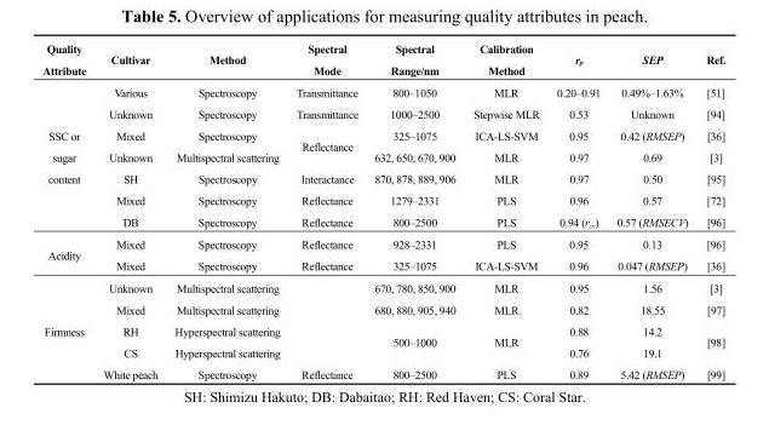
<table><thead><tr><td>Quality Attribute</td><td>Cultivar</td><td>Method</td><td>Spectral Mode</td><td>Spectral Range/nm</td><td>Calibration Method</td><td>r<sub>p</sub></td><td>SEP</td><td>Ref.</td></tr></thead><tbody><tr><td rowspan="7">SSC or sugar content</td><td>Various</td><td>Spectroscopy</td><td>Transmittance</td><td>800–1050</td><td>MLR</td><td>0.20–0.91</td><td>0.49%–1.63%</td><td>[51]</td></tr><tr><td>Unknown</td><td>Spectroscopy</td><td>Transmittance</td><td>1000–2500</td><td>Stepwise MLR</td><td>0.53</td><td>Unknown</td><td>[94]</td></tr><tr><td>Mixed</td><td>Spectroscopy</td><td rowspan="2">Reflectance</td><td>325–1075</td><td>ICA-LS-SVM</td><td>0.95</td><td>0.42 (RMSEP)</td><td>[36]</td></tr><tr><td>Unknown</td><td>Multispectral scattering</td><td>632, 650, 670, 900</td><td>MLR</td><td>0.97</td><td>0.69</td><td>[3]</td></tr><tr><td>SH</td><td>Spectroscopy</td><td>Interactance</td><td>870, 878, 889, 906</td><td>MLR</td><td>0.97</td><td>0.50</td><td>[95]</td></tr><tr><td>Mixed</td><td>Spectroscopy</td><td>Reflectance</td><td>1279–2331</td><td>PLS</td><td>0.96</td><td>0.57</td><td>[72]</td></tr><tr><td>DB</td><td>Spectroscopy</td><td>Reflectance</td><td>800–2500</td><td>PLS</td><td>0.94 (r<sub>cv</sub>)</td><td>0.57 (RMSECV)</td><td>[96]</td></tr><tr><td rowspan="2">Acidity</td><td>Mixed</td><td>Spectroscopy</td><td>Reflectance</td><td>928–2331</td><td>PLS</td><td>0.95</td><td>0.13</td><td>[96]</td></tr><tr><td>Mixed</td><td>Spectroscopy</td><td>Reflectance</td><td>325–1075</td><td>ICA-LS-SVM</td><td>0.96</td><td>0.047 (RMSEP)</td><td>[36]</td></tr><tr><td rowspan="5">Firmness</td><td>Unknown</td><td>Multispectral scattering</td><td></td><td>670, 780, 850, 900</td><td>MLR</td><td>0.95</td><td>1.56</td><td>[3]</td></tr><tr><td>Mixed</td><td>Multispectral scattering</td><td></td><td>680, 880, 905, 940</td><td>MLR</td><td>0.82</td><td>18.55</td><td>[97]</td></tr><tr><td>RH</td><td>Hyperspectral scattering</td><td rowspan="2"></td><td rowspan="2">500–1000</td><td rowspan="2">MLR</td><td>0.88</td><td>14.2</td><td rowspan="2">[98]</td></tr><tr><td>CS</td><td>Hyperspectral scattering</td><td>0.76</td><td>19.1</td></tr><tr><td>White peach</td><td>Spectroscopy</td><td>Reflectance</td><td>800–2500</td><td>PLS</td><td>0.89</td><td>5.42 (RMSEP)</td><td>[99]</td></tr></tbody></table>